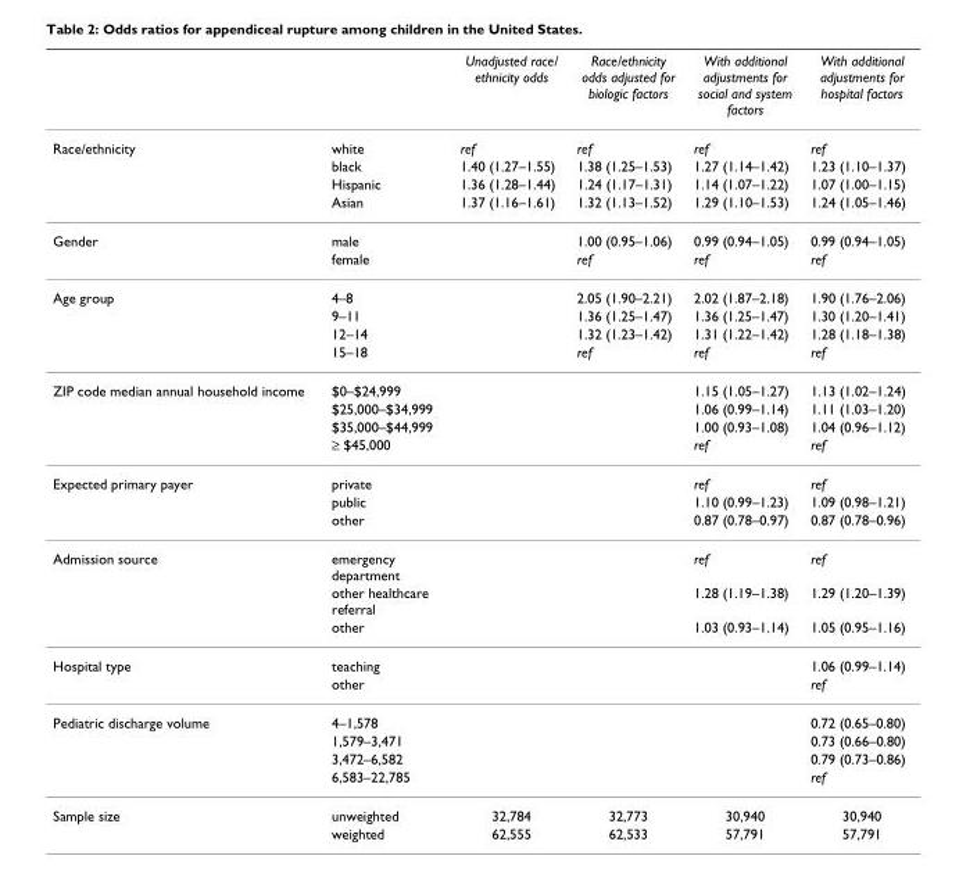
<table><thead><tr><td></td><td></td><td>Unadjusted race/ ethnicity odds</td><td>Race/ethnicity odds adjusted for biologic factors</td><td>With additional adjustments for social and system factors</td><td>With additional adjustments for hospital factors</td></tr></thead><tbody><tr><td rowspan="4">Race/ethnicity</td><td>white</td><td>ref</td><td>ref</td><td>ref</td><td>ref</td></tr><tr><td>black</td><td>1.40 (1.27–1.55)</td><td>1.38 (1.25–1.53)</td><td>1.27 (1.14–1.42)</td><td>1.23 (1.10–1.37)</td></tr><tr><td>Hispanic</td><td>1.36 (1.28–1.44)</td><td>1.24 (1.17–1.31)</td><td>1.14 (1.07–1.22)</td><td>1.07 (1.00–1.15)</td></tr><tr><td>Asian</td><td>1.37 (1.16–1.61)</td><td>1.32 (1.13–1.52)</td><td>1.29 (1.10–1.53)</td><td>1.24 (1.05–1.46)</td></tr><tr><td rowspan="2">Gender</td><td>male</td><td></td><td>1.00 (0.95–1.06)</td><td>0.99 (0.94–1.05)</td><td>0.99 (0.94–1.05)</td></tr><tr><td>female</td><td></td><td>ref</td><td>ref</td><td>ref</td></tr><tr><td rowspan="4">Age group</td><td>4–8</td><td></td><td>2.05 (1.90–2.21)</td><td>2.02 (1.87–2.18)</td><td>1.90 (1.76–2.06)</td></tr><tr><td>9–11</td><td></td><td>1.36 (1.25–1.47)</td><td>1.36 (1.25–1.47)</td><td>1.30 (1.20–1.41)</td></tr><tr><td>12–14</td><td></td><td>1.32 (1.23–1.42)</td><td>1.31 (1.22–1.42)</td><td>1.28 (1.18–1.38)</td></tr><tr><td>15–18</td><td></td><td>ref</td><td>ref</td><td>ref</td></tr><tr><td rowspan="4">ZIP code median annual household income</td><td>$0–$24,999</td><td></td><td></td><td>1.15 (1.05–1.27)</td><td>1.13 (1.02–1.24)</td></tr><tr><td>$25,000–$34,999</td><td></td><td></td><td>1.06 (0.99–1.14)</td><td>1.11 (1.03–1.20)</td></tr><tr><td>$35,000–$44,999</td><td></td><td></td><td>1.00 (0.93–1.08)</td><td>1.04 (0.96–1.12)</td></tr><tr><td>≥ $45,000</td><td></td><td></td><td>ref</td><td>ref</td></tr><tr><td rowspan="3">Expected primary payer</td><td>private</td><td></td><td></td><td>ref</td><td>ref</td></tr><tr><td>public</td><td></td><td></td><td>1.10 (0.99–1.23)</td><td>1.09 (0.98–1.21)</td></tr><tr><td>other</td><td></td><td></td><td>0.87 (0.78–0.97)</td><td>0.87 (0.78–0.96)</td></tr><tr><td rowspan="3">Admission source</td><td>emergency department</td><td></td><td></td><td>ref</td><td>ref</td></tr><tr><td>other healthcare referral</td><td></td><td></td><td>1.28 (1.19–1.38)</td><td>1.29 (1.20–1.39)</td></tr><tr><td>other</td><td></td><td></td><td>1.03 (0.93–1.14)</td><td>1.05 (0.95–1.16)</td></tr><tr><td rowspan="2">Hospital type</td><td>teaching</td><td></td><td></td><td></td><td>1.06 (0.99–1.14)</td></tr><tr><td>other</td><td></td><td></td><td></td><td>ref</td></tr><tr><td rowspan="4">Pediatric discharge volume</td><td>4–1,578</td><td></td><td></td><td></td><td>0.72 (0.65–0.80)</td></tr><tr><td>1,579–3,471</td><td></td><td></td><td></td><td>0.73 (0.66–0.80)</td></tr><tr><td>3,472–6,582</td><td></td><td></td><td></td><td>0.79 (0.73–0.86)</td></tr><tr><td>6,583–22,785</td><td></td><td></td><td></td><td>ref</td></tr><tr><td rowspan="2">Sample size</td><td>unweighted</td><td>32,784</td><td>32,773</td><td>30,940</td><td>30,940</td></tr><tr><td>weighted</td><td>62,555</td><td>62,533</td><td>57,791</td><td>57,791</td></tr></tbody></table>